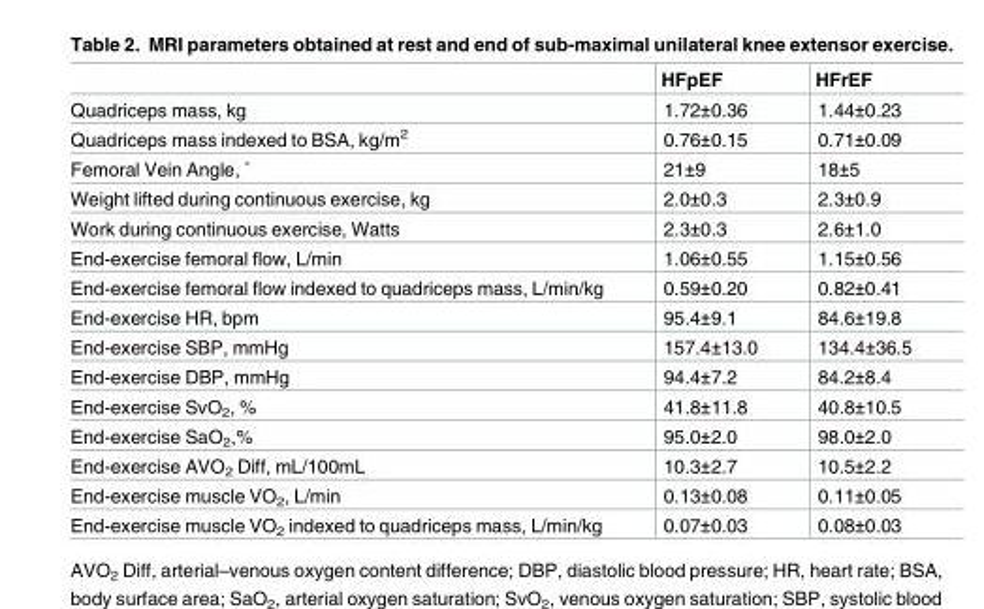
<table><thead><tr><td></td><td>HFpEF</td><td>HFrEF</td></tr></thead><tbody><tr><td>Quadriceps mass, kg</td><td>1.72±0.36</td><td>1.44±0.23</td></tr><tr><td>Quadriceps mass indexed to BSA, kg/m<sup>2</sup></td><td>0.76±0.15</td><td>0.71±0.09</td></tr><tr><td>Femoral Vein Angle, ˚</td><td>21±9</td><td>18±5</td></tr><tr><td>Weight lifted during continuous exercise, kg</td><td>2.0±0.3</td><td>2.3±0.9</td></tr><tr><td>Work during continuous exercise, Watts</td><td>2.3±0.3</td><td>2.6±1.0</td></tr><tr><td>End-exercise femoral flow, L/min</td><td>1.06±0.55</td><td>1.15±0.56</td></tr><tr><td>End-exercise femoral flow indexed to quadriceps mass, L/min/kg</td><td>0.59±0.20</td><td>0.82±0.41</td></tr><tr><td>End-exercise HR, bpm</td><td>95.4±9.1</td><td>84.6±19.8</td></tr><tr><td>End-exercise SBP, mmHg</td><td>157.4±13.0</td><td>134.4±36.5</td></tr><tr><td>End-exercise DBP, mmHg</td><td>94.4±7.2</td><td>84.2±8.4</td></tr><tr><td>End-exercise SvO<sub>2</sub>, %</td><td>41.8±11.8</td><td>40.8±10.5</td></tr><tr><td>End-exercise SaO<sub>2</sub>,%</td><td>95.0±2.0</td><td>98.0±2.0</td></tr><tr><td>End-exercise AVO<sub>2</sub> Diff, mL/100mL</td><td>10.3±2.7</td><td>10.5±2.2</td></tr><tr><td>End-exercise muscle VO<sub>2</sub>, L/min</td><td>0.13±0.08</td><td>0.11±0.05</td></tr><tr><td>End-exercise muscle VO<sub>2</sub> indexed to quadriceps mass, L/min/kg</td><td>0.07±0.03</td><td>0.08±0.03</td></tr></tbody></table>